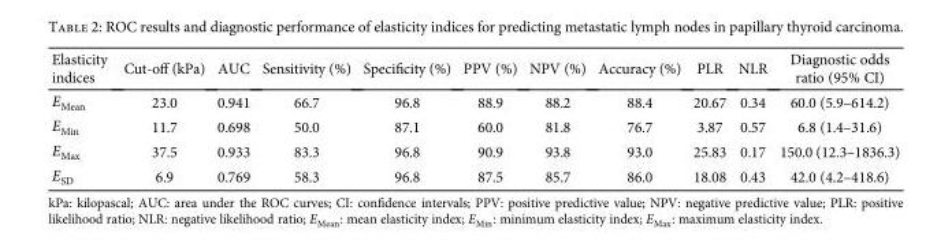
<table><thead><tr><td>Elasticity indices</td><td>Cut-off (kPa)</td><td>AUC</td><td>Sensitivity (%)</td><td>Specificity (%)</td><td>PPV (%)</td><td>NPV (%)</td><td>Accuracy (%)</td><td>PLR</td><td>NLR</td><td>Diagnostic odds ratio (95% CI)</td></tr></thead><tbody><tr><td>E<sub>Mean</sub></td><td>23.0</td><td>0.941</td><td>66.7</td><td>96.8</td><td>88.9</td><td>88.2</td><td>88.4</td><td>20.67</td><td>0.34</td><td>60.0 (5.9–614.2)</td></tr><tr><td>E<sub>Min</sub></td><td>11.7</td><td>0.698</td><td>50.0</td><td>87.1</td><td>60.0</td><td>81.8</td><td>76.7</td><td>3.87</td><td>0.57</td><td>6.8 (1.4–31.6)</td></tr><tr><td>E<sub>Max</sub></td><td>37.5</td><td>0.933</td><td>83.3</td><td>96.8</td><td>90.9</td><td>93.8</td><td>93.0</td><td>25.83</td><td>0.17</td><td>150.0 (12.3–1836.3)</td></tr><tr><td>E<sub>SD</sub></td><td>6.9</td><td>0.769</td><td>58.3</td><td>96.8</td><td>87.5</td><td>85.7</td><td>86.0</td><td>18.08</td><td>0.43</td><td>42.0 (4.2–418.6)</td></tr></tbody></table>